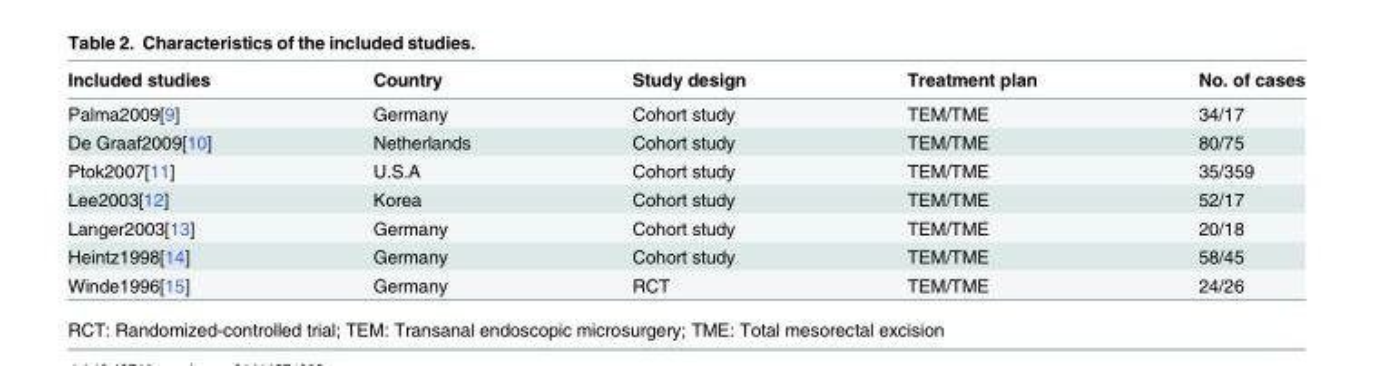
<table><thead><tr><td>Included studies</td><td>Country</td><td>Study design</td><td>Treatment plan</td><td>No. of cases</td></tr></thead><tbody><tr><td>Palma2009[9]</td><td>Germany</td><td>Cohort study</td><td>TEM/TME</td><td>34/17</td></tr><tr><td>De Graaf2009[10]</td><td>Netherlands</td><td>Cohort study</td><td>TEM/TME</td><td>80/75</td></tr><tr><td>Ptok2007[11]</td><td>U.S.A</td><td>Cohort study</td><td>TEM/TME</td><td>35/359</td></tr><tr><td>Lee2003[12]</td><td>Korea</td><td>Cohort study</td><td>TEM/TME</td><td>52/17</td></tr><tr><td>Langer2003[13]</td><td>Germany</td><td>Cohort study</td><td>TEM/TME</td><td>20/18</td></tr><tr><td>Heintz1998[14]</td><td>Germany</td><td>Cohort study</td><td>TEM/TME</td><td>58/45</td></tr><tr><td>Winde1996[15]</td><td>Germany</td><td>RCT</td><td>TEM/TME</td><td>24/26</td></tr></tbody></table>